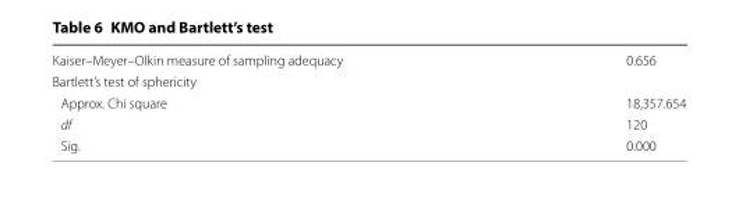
<table><tbody><tr><td>Kaiser–Meyer–Olkin measure of sampling adequacy</td><td>0.656</td></tr><tr><td colspan="2">Bartlett’s test of sphericity</td></tr><tr><td>Approx. Chi square</td><td>18,357.654</td></tr><tr><td>df</td><td>120</td></tr><tr><td>Sig.</td><td>0.000</td></tr></tbody></table>